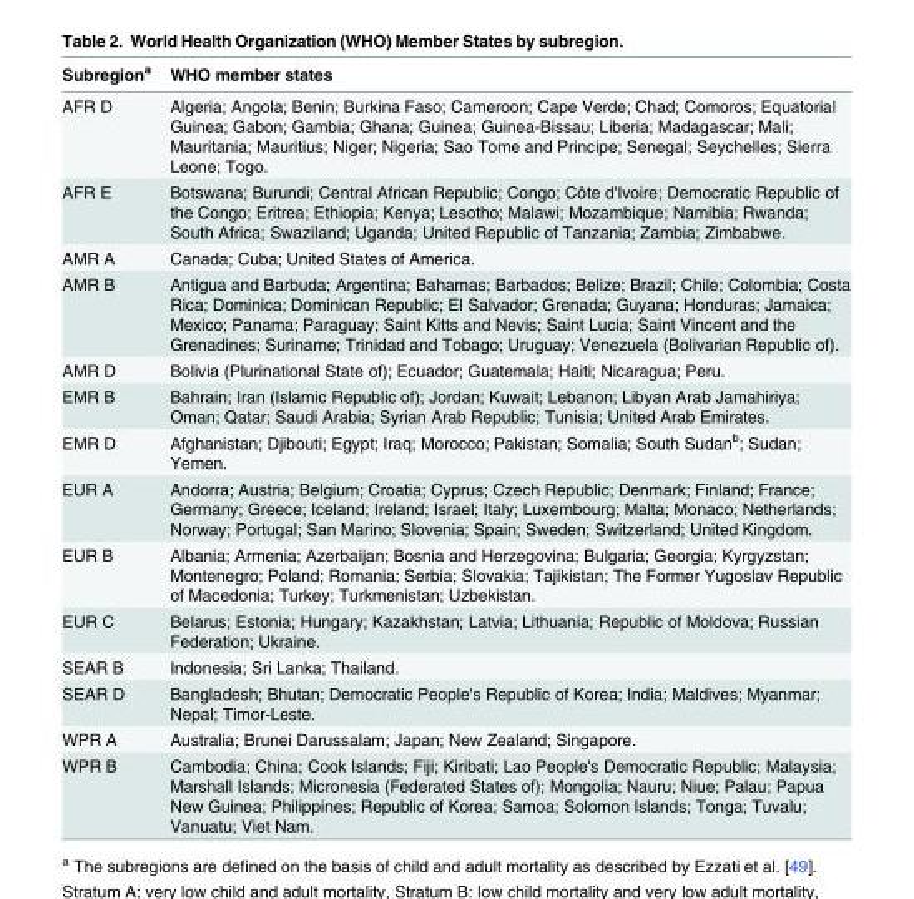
<table><thead><tr><td>Subregion<sup>a</sup></td><td>WHO member states</td></tr></thead><tbody><tr><td>AFR D</td><td>Algeria; Angola; Benin; Burkina Faso; Cameroon; Cape Verde; Chad; Comoros; Equatorial Guinea; Gabon; Gambia; Ghana; Guinea; Guinea-Bissau; Liberia; Madagascar; Mali; Mauritania; Mauritius; Niger; Nigeria; Sao Tome and Principe; Senegal; Seychelles; Sierra Leone; Togo.</td></tr><tr><td>AFR E</td><td>Botswana; Burundi; Central African Republic; Congo; Côte d&#x27;Ivoire; Democratic Republic of the Congo; Eritrea; Ethiopia; Kenya; Lesotho; Malawi; Mozambique; Namibia; Rwanda; South Africa; Swaziland; Uganda; United Republic of Tanzania; Zambia; Zimbabwe.</td></tr><tr><td>AMR A</td><td>Canada; Cuba; United States of America.</td></tr><tr><td>AMR B</td><td>Antigua and Barbuda; Argentina; Bahamas; Barbados; Belize; Brazil; Chile; Colombia; Costa Rica; Dominica; Dominican Republic; El Salvador; Grenada; Guyana; Honduras; Jamaica; Mexico; Panama; Paraguay; Saint Kitts and Nevis; Saint Lucia; Saint Vincent and the Grenadines; Suriname; Trinidad and Tobago; Uruguay; Venezuela (Bolivarian Republic of).</td></tr><tr><td>AMR D</td><td>Bolivia (Plurinational State of); Ecuador; Guatemala; Haiti; Nicaragua; Peru.</td></tr><tr><td>EMR B</td><td>Bahrain; Iran (Islamic Republic of); Jordan; Kuwait; Lebanon; Libyan Arab Jamahiriya; Oman; Qatar; Saudi Arabia; Syrian Arab Republic; Tunisia; United Arab Emirates.</td></tr><tr><td>EMR D</td><td>Afghanistan; Djibouti; Egypt; Iraq; Morocco; Pakistan; Somalia; South Sudan<sup>b</sup>; Sudan; Yemen.</td></tr><tr><td>EUR A</td><td>Andorra; Austria; Belgium; Croatia; Cyprus; Czech Republic; Denmark; Finland; France; Germany; Greece; Iceland; Ireland; Israel; Italy; Luxembourg; Malta; Monaco; Netherlands; Norway; Portugal; San Marino; Slovenia; Spain; Sweden; Switzerland; United Kingdom.</td></tr><tr><td>EUR B</td><td>Albania; Armenia; Azerbaijan; Bosnia and Herzegovina; Bulgaria; Georgia; Kyrgyzstan; Montenegro; Poland; Romania; Serbia; Slovakia; Tajikistan; The Former Yugoslav Republic of Macedonia; Turkey; Turkmenistan; Uzbekistan.</td></tr><tr><td>EUR C</td><td>Belarus; Estonia; Hungary; Kazakhstan; Latvia; Lithuania; Republic of Moldova; Russian Federation; Ukraine.</td></tr><tr><td>SEAR B</td><td>Indonesia; Sri Lanka; Thailand.</td></tr><tr><td>SEAR D</td><td>Bangladesh; Bhutan; Democratic People&#x27;s Republic of Korea; India; Maldives; Myanmar; Nepal; Timor-Leste.</td></tr><tr><td>WPR A</td><td>Australia; Brunei Darussalam; Japan; New Zealand; Singapore.</td></tr><tr><td>WPR B</td><td>Cambodia; China; Cook Islands; Fiji; Kiribati; Lao People&#x27;s Democratic Republic; Malaysia; Marshall Islands; Micronesia (Federated States of); Mongolia; Nauru; Niue; Palau; Papua New Guinea; Philippines; Republic of Korea; Samoa; Solomon Islands; Tonga; Tuvalu; Vanuatu; Viet Nam.</td></tr></tbody></table>